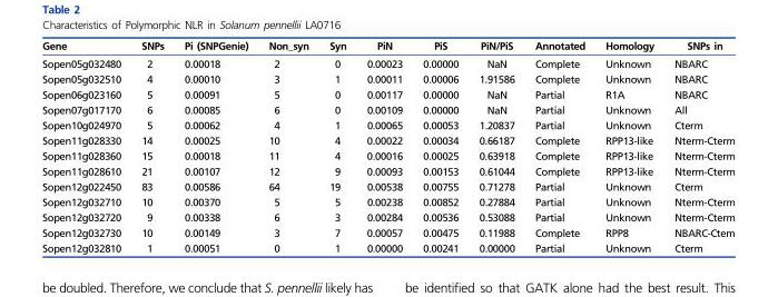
<table><thead><tr><td>Gene</td><td>SNPs</td><td>Pi (SNPGenie)</td><td>Non_syn</td><td>Syn</td><td>PiN</td><td>PiS</td><td>PiN/PiS</td><td>Annotated</td><td>Homology</td><td>SNPs in</td></tr></thead><tbody><tr><td>Sopen05g032480</td><td>2</td><td>0.00018</td><td>2</td><td>0</td><td>0.00023</td><td>0.00000</td><td>NaN</td><td>Complete</td><td>Unknown</td><td>NBARC</td></tr><tr><td>Sopen05g032510</td><td>4</td><td>0.00010</td><td>3</td><td>1</td><td>0.00011</td><td>0.00006</td><td>1.91586</td><td>Complete</td><td>Unknown</td><td>NBARC</td></tr><tr><td>Sopen06g023160</td><td>5</td><td>0.00091</td><td>5</td><td>0</td><td>0.00117</td><td>0.00000</td><td>NaN</td><td>Partial</td><td>R1A</td><td>NBARC</td></tr><tr><td>Sopen07g017170</td><td>6</td><td>0.00085</td><td>6</td><td>0</td><td>0.00109</td><td>0.00000</td><td>NaN</td><td>Partial</td><td>Unknown</td><td>All</td></tr><tr><td>Sopen10g024970</td><td>5</td><td>0.00062</td><td>4</td><td>1</td><td>0.00065</td><td>0.00053</td><td>1.20837</td><td>Partial</td><td>Unknown</td><td>Cterm</td></tr><tr><td>Sopen11g028330</td><td>14</td><td>0.00025</td><td>10</td><td>4</td><td>0.00022</td><td>0.00034</td><td>0.66187</td><td>Complete</td><td>RPP13-like</td><td>Nterm-Cterm</td></tr><tr><td>Sopen11g028360</td><td>15</td><td>0.00018</td><td>11</td><td>4</td><td>0.00016</td><td>0.00025</td><td>0.63918</td><td>Complete</td><td>RPP13-like</td><td>Nterm-Cterm</td></tr><tr><td>Sopen11g028610</td><td>21</td><td>0.00107</td><td>12</td><td>9</td><td>0.00093</td><td>0.00153</td><td>0.61044</td><td>Complete</td><td>RPP13-like</td><td>Nterm-Cterm</td></tr><tr><td>Sopen12g022450</td><td>83</td><td>0.00586</td><td>64</td><td>19</td><td>0.00538</td><td>0.00755</td><td>0.71278</td><td>Partial</td><td>Unknown</td><td>Cterm</td></tr><tr><td>Sopen12g032710</td><td>10</td><td>0.00370</td><td>5</td><td>5</td><td>0.00238</td><td>0.00852</td><td>0.27884</td><td>Partial</td><td>Unknown</td><td>Nterm-Cterm</td></tr><tr><td>Sopen12g032720</td><td>9</td><td>0.00338</td><td>6</td><td>3</td><td>0.00284</td><td>0.00536</td><td>0.53088</td><td>Partial</td><td>Unknown</td><td>Nterm-Cterm</td></tr><tr><td>Sopen12g032730</td><td>10</td><td>0.00149</td><td>3</td><td>7</td><td>0.00057</td><td>0.00475</td><td>0.11988</td><td>Complete</td><td>RPP8</td><td>NBARC-Ctem</td></tr><tr><td>Sopen12g032810</td><td>1</td><td>0.00051</td><td>0</td><td>1</td><td>0.00000</td><td>0.00241</td><td>0.00000</td><td>Partial</td><td>Unknown</td><td>Cterm</td></tr></tbody></table>